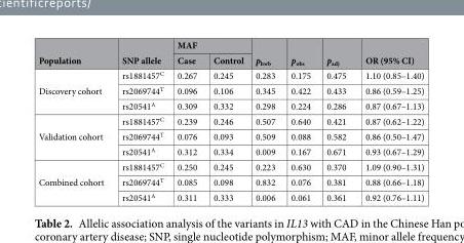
<table><thead><tr><td rowspan="2">Population</td><td rowspan="2">SNP allele</td><td colspan="2">MAF</td><td rowspan="2">p<sub>hwb</sub></td><td rowspan="2">p<sub>obs</sub></td><td rowspan="2">p<sub>adj</sub></td><td rowspan="2">OR (95% CI)</td></tr><tr><td>Case</td><td>Control</td></tr></thead><tbody><tr><td rowspan="3">Discovery cohort</td><td>rs1881457<sup>C</sup></td><td>0.267</td><td>0.245</td><td>0.283</td><td>0.175</td><td>0.475</td><td>1.10 (0.85–1.40)</td></tr><tr><td>rs2069744<sup>T</sup></td><td>0.096</td><td>0.106</td><td>0.345</td><td>0.422</td><td>0.433</td><td>0.86 (0.59–1.25)</td></tr><tr><td>rs20541<sup>A</sup></td><td>0.309</td><td>0.332</td><td>0.298</td><td>0.224</td><td>0.286</td><td>0.87 (0.67–1.13)</td></tr><tr><td rowspan="3">Validation cohort</td><td>rs1881457<sup>C</sup></td><td>0.239</td><td>0.246</td><td>0.507</td><td>0.640</td><td>0.421</td><td>0.87 (0.62–1.22)</td></tr><tr><td>rs2069744<sup>T</sup></td><td>0.076</td><td>0.093</td><td>0.509</td><td>0.088</td><td>0.582</td><td>0.86 (0.50–1.47)</td></tr><tr><td>rs20541<sup>A</sup></td><td>0.312</td><td>0.334</td><td>0.009</td><td>0.167</td><td>0.671</td><td>0.93 (0.67–1.29)</td></tr><tr><td rowspan="3">Combined cohort</td><td>rs1881457<sup>C</sup></td><td>0.250</td><td>0.245</td><td>0.223</td><td>0.630</td><td>0.370</td><td>1.09 (0.90–1.31)</td></tr><tr><td>rs2069744<sup>T</sup></td><td>0.085</td><td>0.098</td><td>0.832</td><td>0.076</td><td>0.381</td><td>0.88 (0.66–1.18)</td></tr><tr><td>rs20541<sup>A</sup></td><td>0.311</td><td>0.333</td><td>0.006</td><td>0.061</td><td>0.361</td><td>0.92 (0.76–1.11)</td></tr></tbody></table>